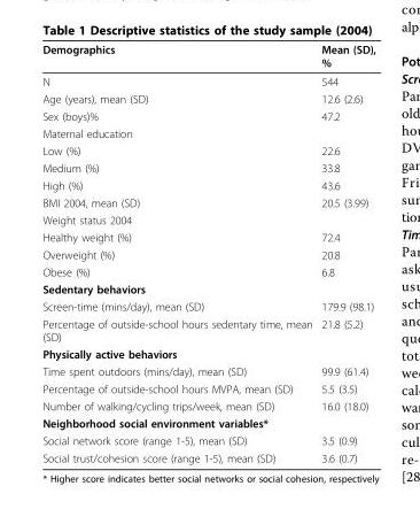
<table><thead><tr><td>Demographics</td><td>Mean (SD), %</td></tr></thead><tbody><tr><td>N</td><td>544</td></tr><tr><td>Age (years), mean (SD)</td><td>12.6 (2.6)</td></tr><tr><td>Sex (boys)%</td><td>47.2</td></tr><tr><td colspan="2">Maternal education</td></tr><tr><td>Low (%)</td><td>22.6</td></tr><tr><td>Medium (%)</td><td>33.8</td></tr><tr><td>High (%)</td><td>43.6</td></tr><tr><td>BMI 2004, mean (SD)</td><td>20.5 (3.99)</td></tr><tr><td colspan="2">Weight status 2004</td></tr><tr><td>Healthy weight (%)</td><td>72.4</td></tr><tr><td>Overweight (%)</td><td>20.8</td></tr><tr><td>Obese (%)</td><td>6.8</td></tr><tr><td colspan="2">Sedentary behaviors</td></tr><tr><td>Screen-time (mins/day), mean (SD)</td><td>179.9 (98.1)</td></tr><tr><td>Percentage of outside-school hours sedentary time, mean (SD)</td><td>21.8 (5.2)</td></tr><tr><td colspan="2">Physically active behaviors</td></tr><tr><td>Time spent outdoors (mins/day), mean (SD)</td><td>99.9 (61.4)</td></tr><tr><td>Percentage of outside-school hours MVPA, mean (SD)</td><td>5.5 (3.5)</td></tr><tr><td>Number of walking/cycling trips/week, mean (SD)</td><td>16.0 (18.0)</td></tr><tr><td colspan="2">Neighborhood social environment variables*</td></tr><tr><td>Social network score (range 1-5), mean (SD)</td><td>3.5 (0.9)</td></tr><tr><td>Social trust/cohesion score (range 1-5), mean (SD)</td><td>3.6 (0.7)</td></tr></tbody></table>